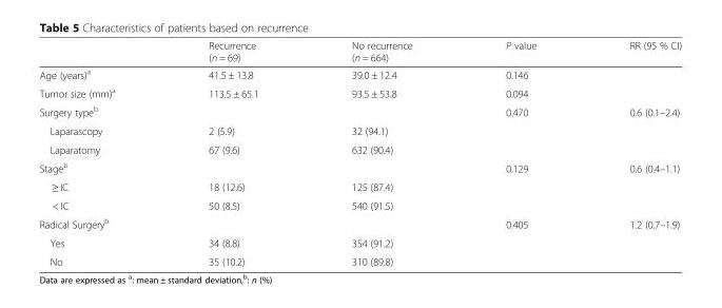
<table><thead><tr><td></td><td>Recurrence (n = 69)</td><td>No recurrence (n = 664)</td><td>P value</td><td>RR (95 % CI)</td></tr></thead><tbody><tr><td>Age (years)<sup>a</sup></td><td>41.5 ± 13.8</td><td>39.0 ± 12.4</td><td>0.146</td><td></td></tr><tr><td>Tumor size (mm)<sup>a</sup></td><td>113.5 ± 65.1</td><td>93.5 ± 53.8</td><td>0.094</td><td></td></tr><tr><td>Surgery type<sup>b</sup></td><td></td><td></td><td>0.470</td><td>0.6 (0.1–2.4)</td></tr><tr><td>Laparascopy</td><td>2 (5.9)</td><td>32 (94.1)</td><td></td><td></td></tr><tr><td>Laparatomy</td><td>67 (9.6)</td><td>632 (90.4)</td><td></td><td></td></tr><tr><td>Stage<sup>b</sup></td><td></td><td></td><td>0.129</td><td>0.6 (0.4–1.1)</td></tr><tr><td>≥ IC</td><td>18 (12.6)</td><td>125 (87.4)</td><td></td><td></td></tr><tr><td>&lt; IC</td><td>50 (8.5)</td><td>540 (91.5)</td><td></td><td></td></tr><tr><td>Radical Surgery<sup>b</sup></td><td></td><td></td><td>0.405</td><td>1.2 (0.7–1.9)</td></tr><tr><td>Yes</td><td>34 (8.8)</td><td>354 (91.2)</td><td></td><td></td></tr><tr><td>No</td><td>35 (10.2)</td><td>310 (89.8)</td><td></td><td></td></tr></tbody></table>